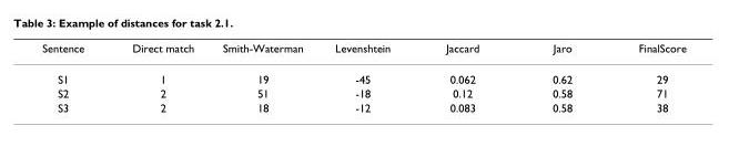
<table><thead><tr><td>Sentence</td><td>Direct match</td><td>Smith-Waterman</td><td>Levenshtein</td><td>Jaccard</td><td>Jaro</td><td>FinalScore</td></tr></thead><tbody><tr><td>S1</td><td>1</td><td>19</td><td>-45</td><td>0.062</td><td>0.62</td><td>29</td></tr><tr><td>S2</td><td>2</td><td>51</td><td>-18</td><td>0.12</td><td>0.58</td><td>71</td></tr><tr><td>S3</td><td>2</td><td>18</td><td>-12</td><td>0.083</td><td>0.58</td><td>38</td></tr></tbody></table>